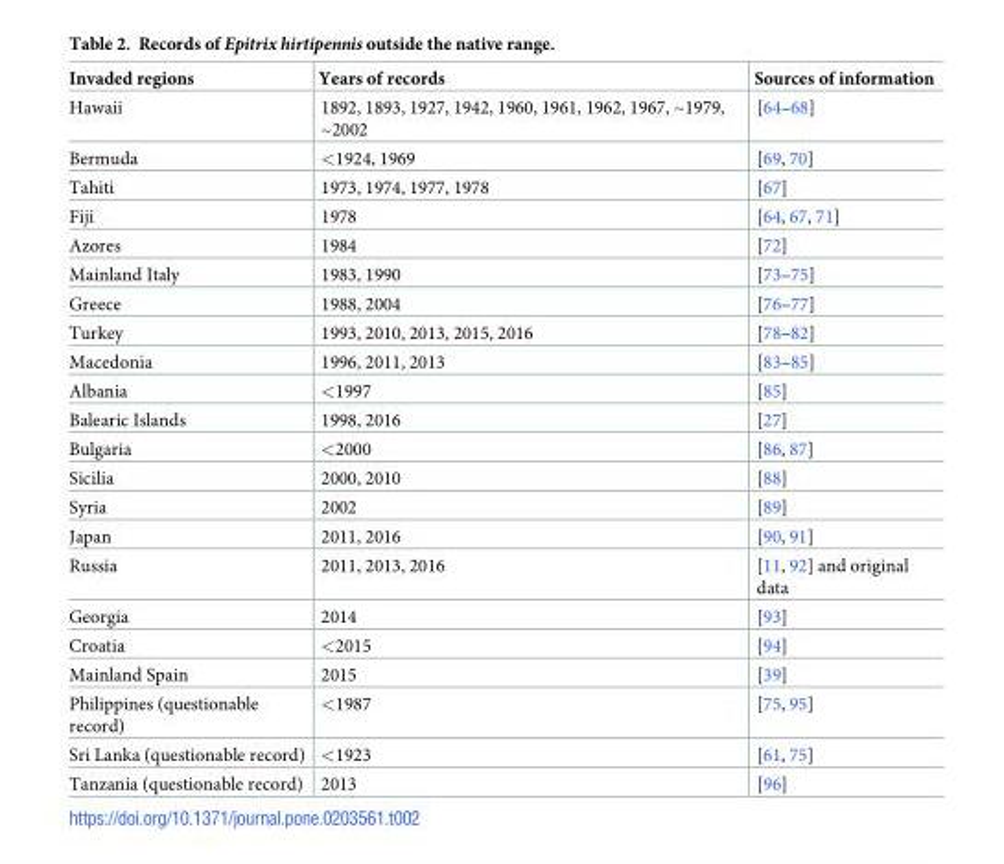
<table><thead><tr><td>Invaded regions</td><td>Years of records</td><td>Sources of information</td></tr></thead><tbody><tr><td>Hawaii</td><td>1892, 1893, 1927, 1942, 1960, 1961, 1962, 1967, ~1979, ~2002</td><td>[64–68]</td></tr><tr><td>Bermuda</td><td>&lt;1924, 1969</td><td>[69, 70]</td></tr><tr><td>Tahiti</td><td>1973, 1974, 1977, 1978</td><td>[67]</td></tr><tr><td>Fiji</td><td>1978</td><td>[64, 67, 71]</td></tr><tr><td>Azores</td><td>1984</td><td>[72]</td></tr><tr><td>Mainland Italy</td><td>1983, 1990</td><td>[73–75]</td></tr><tr><td>Greece</td><td>1988, 2004</td><td>[76–77]</td></tr><tr><td>Turkey</td><td>1993, 2010, 2013, 2015, 2016</td><td>[78–82]</td></tr><tr><td>Macedonia</td><td>1996, 2011, 2013</td><td>[83–85]</td></tr><tr><td>Albania</td><td>&lt;1997</td><td>[85]</td></tr><tr><td>Balearic Islands</td><td>1998, 2016</td><td>[27]</td></tr><tr><td>Bulgaria</td><td>&lt;2000</td><td>[86, 87]</td></tr><tr><td>Sicilia</td><td>2000, 2010</td><td>[88]</td></tr><tr><td>Syria</td><td>2002</td><td>[89]</td></tr><tr><td>Japan</td><td>2011, 2016</td><td>[90, 91]</td></tr><tr><td>Russia</td><td>2011, 2013, 2016</td><td>[11, 92] and original data</td></tr><tr><td>Georgia</td><td>2014</td><td>[93]</td></tr><tr><td>Croatia</td><td>&lt;2015</td><td>[94]</td></tr><tr><td>Mainland Spain</td><td>2015</td><td>[39]</td></tr><tr><td>Philippines (questionable record)</td><td>&lt;1987</td><td>[75, 95]</td></tr><tr><td>Sri Lanka (questionable record)</td><td>&lt;1923</td><td>[61, 75]</td></tr><tr><td>Tanzania (questionable record)</td><td>2013</td><td>[96]</td></tr></tbody></table>